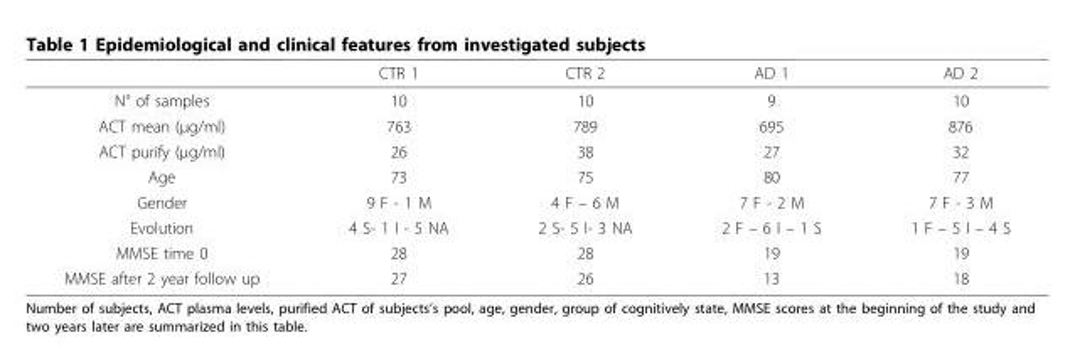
<table><thead><tr><td></td><td>CTR 1</td><td>CTR 2</td><td>AD 1</td><td>AD 2</td></tr></thead><tbody><tr><td>N° of samples</td><td>10</td><td>10</td><td>9</td><td>10</td></tr><tr><td>ACT mean (µg/ml)</td><td>763</td><td>789</td><td>695</td><td>876</td></tr><tr><td>ACT purify (µg/ml)</td><td>26</td><td>38</td><td>27</td><td>32</td></tr><tr><td>Age</td><td>73</td><td>75</td><td>80</td><td>77</td></tr><tr><td>Gender</td><td>9 F - 1 M</td><td>4 F – 6 M</td><td>7 F - 2 M</td><td>7 F - 3 M</td></tr><tr><td>Evolution</td><td>4 S- 1 I - 5 NA</td><td>2 S- 5 I- 3 NA</td><td>2 F – 6 I – 1 S</td><td>1 F – 5 I – 4 S</td></tr><tr><td>MMSE time 0</td><td>28</td><td>28</td><td>19</td><td>19</td></tr><tr><td>MMSE after 2 year follow up</td><td>27</td><td>26</td><td>13</td><td>18</td></tr></tbody></table>